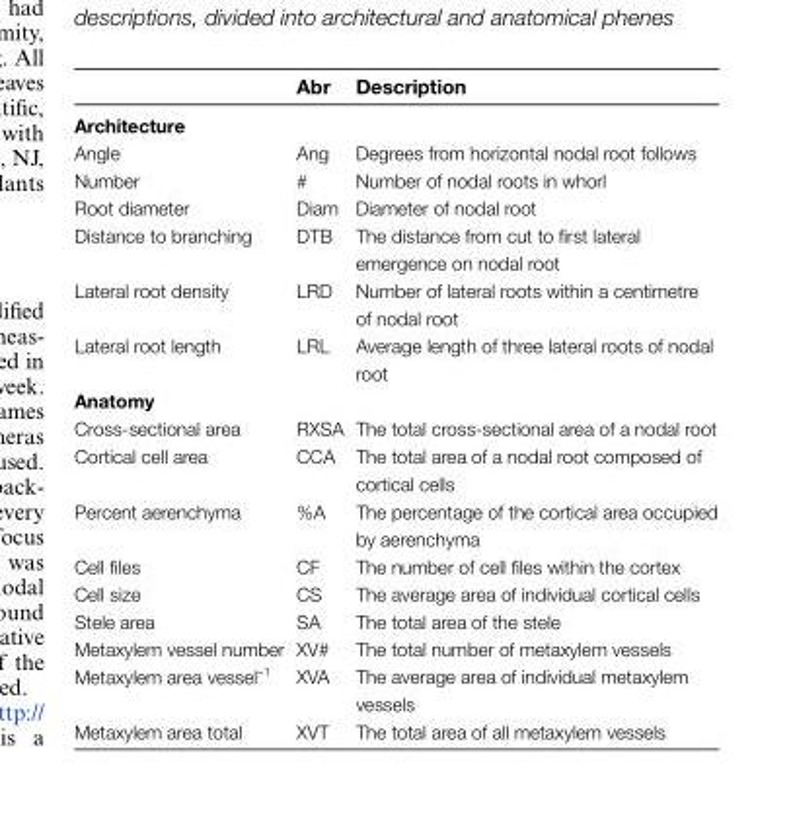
<table><thead><tr><td></td><td>Abr</td><td>Description</td></tr></thead><tbody><tr><td colspan="3">Architecture</td></tr><tr><td>Angle</td><td>Ang</td><td>Degrees from horizontal nodal root follows</td></tr><tr><td>Number</td><td>#</td><td>Number of nodal roots in whorl</td></tr><tr><td>Root diameter</td><td>Diam</td><td>Diameter of nodal root</td></tr><tr><td>Distance to branching</td><td>DTB</td><td>The distance from cut to first lateral emergence on nodal root</td></tr><tr><td>Lateral root density</td><td>LRD</td><td>Number of lateral roots within a centimetre of nodal root</td></tr><tr><td>Lateral root length</td><td>LRL</td><td>Average length of three lateral roots of nodal root</td></tr><tr><td colspan="3">Anatomy</td></tr><tr><td>Cross-sectional area</td><td>RXSA</td><td>The total cross-sectional area of a nodal root</td></tr><tr><td>Cortical cell area</td><td>CCA</td><td>The total area of a nodal root composed of cortical cells</td></tr><tr><td>Percent aerenchyma</td><td>%A</td><td>The percentage of the cortical area occupied by aerenchyma</td></tr><tr><td>Cell files</td><td>CF</td><td>The number of cell files within the cortex</td></tr><tr><td>Cell size</td><td>CS</td><td>The average area of individual cortical cells</td></tr><tr><td>Stele area</td><td>SA</td><td>The total area of the stele</td></tr><tr><td>Metaxylem vessel number</td><td>XV#</td><td>The total number of metaxylem vessels</td></tr><tr><td>Metaxylem area vessel<sup>–1</sup></td><td>XVA</td><td>The average area of individual metaxylem vessels</td></tr><tr><td>Metaxylem area total</td><td>XVT</td><td>The total area of all metaxylem vessels</td></tr></tbody></table>